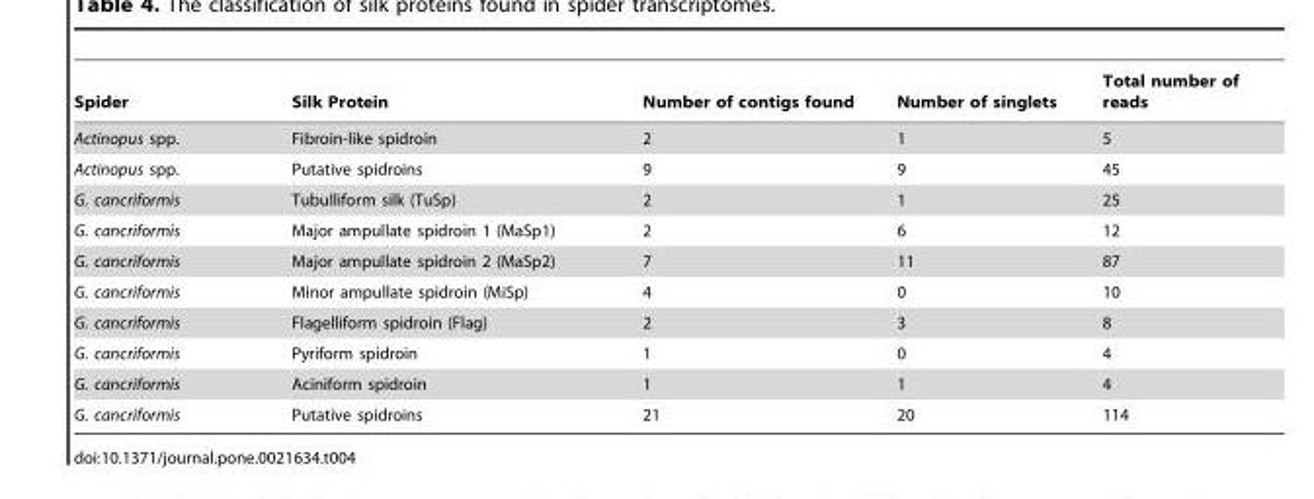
<table><thead><tr><td>Spider</td><td>Silk Protein</td><td>Number of contigs found</td><td>Number of singlets</td><td>Total number of reads</td></tr></thead><tbody><tr><td>Actinopus spp.</td><td>Fibroin-like spidroin</td><td>2</td><td>1</td><td>5</td></tr><tr><td>Actinopus spp.</td><td>Putative spidroins</td><td>9</td><td>9</td><td>45</td></tr><tr><td>G. cancriformis</td><td>Tubulliform silk (TuSp)</td><td>2</td><td>1</td><td>25</td></tr><tr><td>G. cancriformis</td><td>Major ampullate spidroin 1 (MaSp1)</td><td>2</td><td>6</td><td>12</td></tr><tr><td>G. cancriformis</td><td>Major ampullate spidroin 2 (MaSp2)</td><td>7</td><td>11</td><td>87</td></tr><tr><td>G. cancriformis</td><td>Minor ampullate spidroin (MiSp)</td><td>4</td><td>0</td><td>10</td></tr><tr><td>G. cancriformis</td><td>Flagelliform spidroin (Flag)</td><td>2</td><td>3</td><td>8</td></tr><tr><td>G. cancriformis</td><td>Pyriform spidroin</td><td>1</td><td>0</td><td>4</td></tr><tr><td>G. cancriformis</td><td>Aciniform spidroin</td><td>1</td><td>1</td><td>4</td></tr><tr><td>G. cancriformis</td><td>Putative spidroins</td><td>21</td><td>20</td><td>114</td></tr></tbody></table>